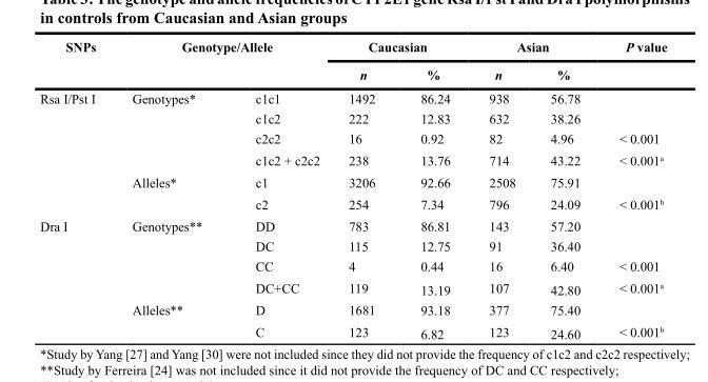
<table><thead><tr><td rowspan="2">SNPs</td><td colspan="2">Genotype/Allele</td><td colspan="2">Caucasian</td><td colspan="2">Asian</td><td rowspan="2">P value</td></tr><tr><td></td><td></td><td>n</td><td>%</td><td>n</td><td>%</td></tr></thead><tbody><tr><td rowspan="6">Rsa I/Pst I</td><td>Genotypes*</td><td>c1c1</td><td>1492</td><td>86.24</td><td>938</td><td>56.78</td><td></td></tr><tr><td></td><td>c1c2</td><td>222</td><td>12.83</td><td>632</td><td>38.26</td><td></td></tr><tr><td></td><td>c2c2</td><td>16</td><td>0.92</td><td>82</td><td>4.96</td><td>&lt; 0.001</td></tr><tr><td></td><td>c1c2 + c2c2</td><td>238</td><td>13.76</td><td>714</td><td>43.22</td><td>&lt; 0.001<sup>a</sup></td></tr><tr><td>Alleles*</td><td>c1</td><td>3206</td><td>92.66</td><td>2508</td><td>75.91</td><td></td></tr><tr><td></td><td>c2</td><td>254</td><td>7.34</td><td>796</td><td>24.09</td><td>&lt; 0.001<sup>b</sup></td></tr><tr><td rowspan="6">Dra I</td><td>Genotypes**</td><td>DD</td><td>783</td><td>86.81</td><td>143</td><td>57.20</td><td></td></tr><tr><td></td><td>DC</td><td>115</td><td>12.75</td><td>91</td><td>36.40</td><td></td></tr><tr><td></td><td>CC</td><td>4</td><td>0.44</td><td>16</td><td>6.40</td><td>&lt; 0.001</td></tr><tr><td></td><td>DC+CC</td><td>119</td><td>13.19</td><td>107</td><td>42.80</td><td>&lt; 0.001<sup>a</sup></td></tr><tr><td>Alleles**</td><td>D</td><td>1681</td><td>93.18</td><td>377</td><td>75.40</td><td></td></tr><tr><td></td><td>C</td><td>123</td><td>6.82</td><td>123</td><td>24.60</td><td>&lt; 0.001<sup>b</sup></td></tr></tbody></table>